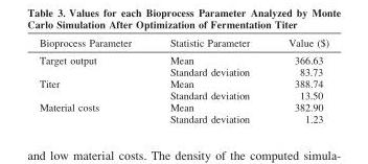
<table><thead><tr><td>Bioprocess Parameter</td><td>Statistic Parameter</td><td>Value ($)</td></tr></thead><tbody><tr><td rowspan="2">Target output</td><td>Mean</td><td>366.63</td></tr><tr><td>Standard deviation</td><td>83.73</td></tr><tr><td rowspan="2">Titer</td><td>Mean</td><td>388.74</td></tr><tr><td>Standard deviation</td><td>13.50</td></tr><tr><td rowspan="2">Material costs</td><td>Mean</td><td>382.90</td></tr><tr><td>Standard deviation</td><td>1.23</td></tr></tbody></table>